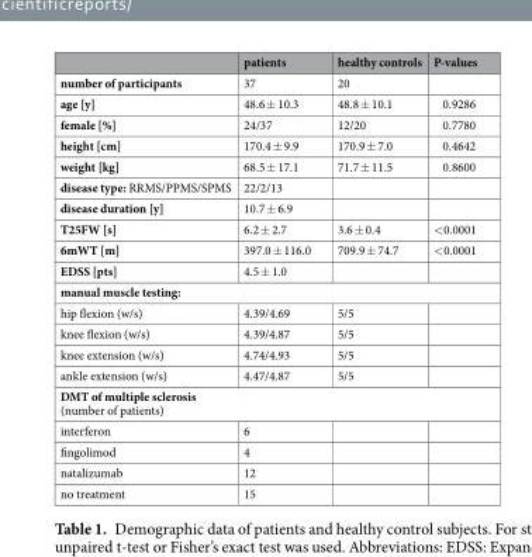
<table><thead><tr><td></td><td>patients</td><td>healthy controls</td><td>P-values</td></tr></thead><tbody><tr><td>number of participants</td><td>37</td><td>20</td><td></td></tr><tr><td>age [y]</td><td>48.6 ± 10.3</td><td>48.8 ± 10.1</td><td>0.9286</td></tr><tr><td>female [%]</td><td>24/37</td><td>12/20</td><td>0.7780</td></tr><tr><td>height [cm]</td><td>170.4 ± 9.9</td><td>170.9 ± 7.0</td><td>0.4642</td></tr><tr><td>weight [kg]</td><td>68.5 ± 17.1</td><td>71.7 ± 11.5</td><td>0.8600</td></tr><tr><td>disease type: RRMS/PPMS/SPMS</td><td>22/2/13</td><td></td><td></td></tr><tr><td>disease duration [y]</td><td>10.7 ± 6.9</td><td></td><td></td></tr><tr><td>T25FW [s]</td><td>6.2 ± 2.7</td><td>3.6 ± 0.4</td><td>&lt;0.0001</td></tr><tr><td>6mWT [m]</td><td>397.0 ± 116.0</td><td>709.9 ± 74.7</td><td>&lt;0.0001</td></tr><tr><td>EDSS [pts]</td><td>4.5 ± 1.0</td><td></td><td></td></tr><tr><td colspan="4">manual muscle testing:</td></tr><tr><td>hip flexion (w/s)</td><td>4.39/4.69</td><td>5/5</td><td></td></tr><tr><td>knee flexion (w/s)</td><td>4.39/4.87</td><td>5/5</td><td></td></tr><tr><td>knee extension (w/s)</td><td>4.74/4.93</td><td>5/5</td><td></td></tr><tr><td>ankle extension (w/s)</td><td>4.47/4.87</td><td>5/5</td><td></td></tr><tr><td colspan="4">DMT of multiple sclerosis (number of patients)</td></tr><tr><td>interferon</td><td>6</td><td></td><td></td></tr><tr><td>fingolimod</td><td>4</td><td></td><td></td></tr><tr><td>natalizumab</td><td>12</td><td></td><td></td></tr><tr><td>no treatment</td><td>15</td><td></td><td></td></tr></tbody></table>